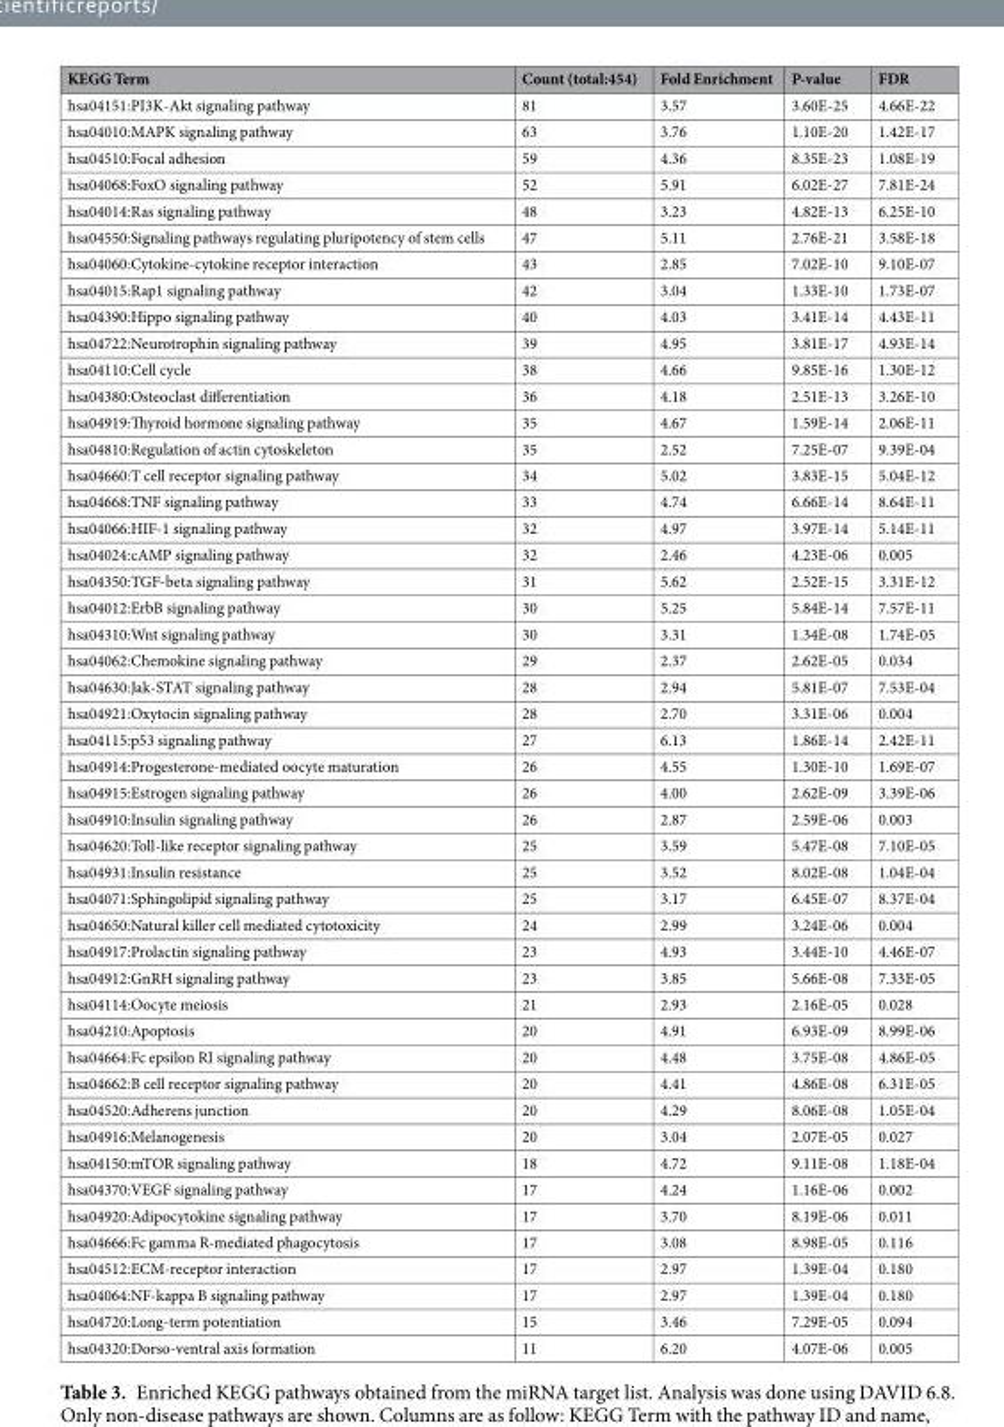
<table><thead><tr><td>KEGG Term</td><td>Count (total:454)</td><td>Fold Enrichment</td><td>P-value</td><td>FDR</td></tr></thead><tbody><tr><td>hsa04151:PI3K-Akt signaling pathway</td><td>81</td><td>3.57</td><td>3.60E-25</td><td>4.66E-22</td></tr><tr><td>hsa04010:MAPK signaling pathway</td><td>63</td><td>3.76</td><td>1.10E-20</td><td>1.42E-17</td></tr><tr><td>hsa04510:Focal adhesion</td><td>59</td><td>4.36</td><td>8.35E-23</td><td>1.08E-19</td></tr><tr><td>hsa04068:FoxO signaling pathway</td><td>52</td><td>5.91</td><td>6.02E-27</td><td>7.81E-24</td></tr><tr><td>hsa04014:Ras signaling pathway</td><td>48</td><td>3.23</td><td>4.82E-13</td><td>6.25E-10</td></tr><tr><td>hsa04550:Signaling pathways regulating pluripotency of stem cells</td><td>47</td><td>5.11</td><td>2.76E-21</td><td>3.58E-18</td></tr><tr><td>hsa04060:Cytokine-cytokine receptor interaction</td><td>43</td><td>2.85</td><td>7.02E-10</td><td>9.10E-07</td></tr><tr><td>hsa04015:Rap1 signaling pathway</td><td>42</td><td>3.04</td><td>1.33E-10</td><td>1.73E-07</td></tr><tr><td>hsa04390:Hippo signaling pathway</td><td>40</td><td>4.03</td><td>3.41E-14</td><td>4.43E-11</td></tr><tr><td>hsa04722:Neurotrophin signaling pathway</td><td>39</td><td>4.95</td><td>3.81E-17</td><td>4.93E-14</td></tr><tr><td>hsa04110:Cell cycle</td><td>38</td><td>4.66</td><td>9.85E-16</td><td>1.30E-12</td></tr><tr><td>hsa04380:Osteoclast differentiation</td><td>36</td><td>4.18</td><td>2.51E-13</td><td>3.26E-10</td></tr><tr><td>hsa04919:Thyroid hormone signaling pathway</td><td>35</td><td>4.67</td><td>1.59E-14</td><td>2.06E-11</td></tr><tr><td>hsa04810:Regulation of actin cytoskeleton</td><td>35</td><td>2.52</td><td>7.25E-07</td><td>9.39E-04</td></tr><tr><td>hsa04660:T cell receptor signaling pathway</td><td>34</td><td>5.02</td><td>3.83E-15</td><td>5.04E-12</td></tr><tr><td>hsa04668:TNF signaling pathway</td><td>33</td><td>4.74</td><td>6.66E-14</td><td>8.64E-11</td></tr><tr><td>hsa04066:HIF-1 signaling pathway</td><td>32</td><td>4.97</td><td>3.97E-14</td><td>5.14E-11</td></tr><tr><td>hsa04024:cAMP signaling pathway</td><td>32</td><td>2.46</td><td>4.23E-06</td><td>0.005</td></tr><tr><td>hsa04350:TGF-beta signaling pathway</td><td>31</td><td>5.62</td><td>2.52E-15</td><td>3.31E-12</td></tr><tr><td>hsa04012:ErbB signaling pathway</td><td>30</td><td>5.25</td><td>5.84E-14</td><td>7.57E-11</td></tr><tr><td>hsa04310:Wnt signaling pathway</td><td>30</td><td>3.31</td><td>1.34E-08</td><td>1.74E-05</td></tr><tr><td>hsa04062:Chemokine signaling pathway</td><td>29</td><td>2.37</td><td>2.62E-05</td><td>0.034</td></tr><tr><td>hsa04630:Jak-STAT signaling pathway</td><td>28</td><td>2.94</td><td>5.81E-07</td><td>7.53E-04</td></tr><tr><td>hsa04921:Oxytocin signaling pathway</td><td>28</td><td>2.70</td><td>3.31E-06</td><td>0.004</td></tr><tr><td>hsa04115:p53 signaling pathway</td><td>27</td><td>6.13</td><td>1.86E-14</td><td>2.42E-11</td></tr><tr><td>hsa04914:Progesterone-mediated oocyte maturation</td><td>26</td><td>4.55</td><td>1.30E-10</td><td>1.69E-07</td></tr><tr><td>hsa04915:Estrogen signaling pathway</td><td>26</td><td>4.00</td><td>2.62E-09</td><td>3.39E-06</td></tr><tr><td>hsa04910:Insulin signaling pathway</td><td>26</td><td>2.87</td><td>2.59E-06</td><td>0.003</td></tr><tr><td>hsa04620:Toll-like receptor signaling pathway</td><td>25</td><td>3.59</td><td>5.47E-08</td><td>7.10E-05</td></tr><tr><td>hsa04931:Insulin resistance</td><td>25</td><td>3.52</td><td>8.02E-08</td><td>1.04E-04</td></tr><tr><td>hsa04071:Sphingolipid signaling pathway</td><td>25</td><td>3.17</td><td>6.45E-07</td><td>8.37E-04</td></tr><tr><td>hsa04650:Natural killer cell mediated cytotoxicity</td><td>24</td><td>2.99</td><td>3.24E-06</td><td>0.004</td></tr><tr><td>hsa04917:Prolactin signaling pathway</td><td>23</td><td>4.93</td><td>3.44E-10</td><td>4.46E-07</td></tr><tr><td>hsa04912:GnRH signaling pathway</td><td>23</td><td>3.85</td><td>5.66E-08</td><td>7.33E-05</td></tr><tr><td>hsa04114:Oocyte meiosis</td><td>21</td><td>2.93</td><td>2.16E-05</td><td>0.028</td></tr><tr><td>hsa04210:Apoptosis</td><td>20</td><td>4.91</td><td>6.93E-09</td><td>8.99E-06</td></tr><tr><td>hsa04664:Fc epsilon RI signaling pathway</td><td>20</td><td>4.48</td><td>3.75E-08</td><td>4.86E-05</td></tr><tr><td>hsa04662:B cell receptor signaling pathway</td><td>20</td><td>4.41</td><td>4.86E-08</td><td>6.31E-05</td></tr><tr><td>hsa04520:Adherens junction</td><td>20</td><td>4.29</td><td>8.06E-08</td><td>1.05E-04</td></tr><tr><td>hsa04916:Melanogenesis</td><td>20</td><td>3.04</td><td>2.07E-05</td><td>0.027</td></tr><tr><td>hsa04150:mTOR signaling pathway</td><td>18</td><td>4.72</td><td>9.11E-08</td><td>1.18E-04</td></tr><tr><td>hsa04370:VEGF signaling pathway</td><td>17</td><td>4.24</td><td>1.16E-06</td><td>0.002</td></tr><tr><td>hsa04920:Adipocytokine signaling pathway</td><td>17</td><td>3.70</td><td>8.19E-06</td><td>0.011</td></tr><tr><td>hsa04666:Fc gamma R-mediated phagocytosis</td><td>17</td><td>3.08</td><td>8.98E-05</td><td>0.116</td></tr><tr><td>hsa04512:ECM-receptor interaction</td><td>17</td><td>2.97</td><td>1.39E-04</td><td>0.180</td></tr><tr><td>hsa04064:NF-kappa B signaling pathway</td><td>17</td><td>2.97</td><td>1.39E-04</td><td>0.180</td></tr><tr><td>hsa04720:Long-term potentiation</td><td>15</td><td>3.46</td><td>7.29E-05</td><td>0.094</td></tr><tr><td>hsa04320:Dorso-ventral axis formation</td><td>11</td><td>6.20</td><td>4.07E-06</td><td>0.005</td></tr></tbody></table>